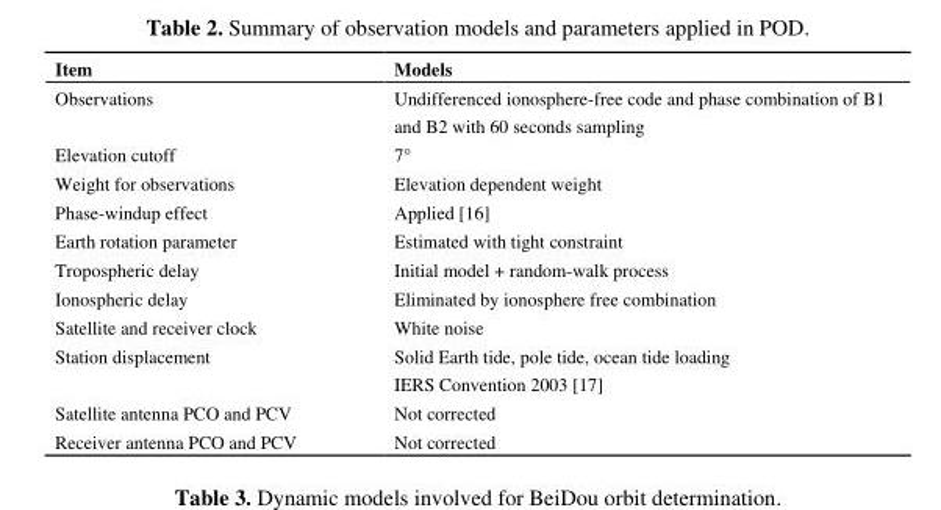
<table><thead><tr><td>Item</td><td>Models</td></tr></thead><tbody><tr><td>Observations</td><td>Undifferenced ionosphere-free code and phase combination of B1 and B2 with 60 seconds sampling</td></tr><tr><td>Elevation cutoff</td><td>7°</td></tr><tr><td>Weight for observations</td><td>Elevation dependent weight</td></tr><tr><td>Phase-windup effect</td><td>Applied [16]</td></tr><tr><td>Earth rotation parameter</td><td>Estimated with tight constraint</td></tr><tr><td>Tropospheric delay</td><td>Initial model + random-walk process</td></tr><tr><td>Ionospheric delay</td><td>Eliminated by ionosphere free combination</td></tr><tr><td>Satellite and receiver clock</td><td>White noise</td></tr><tr><td rowspan="2">Station displacement</td><td>Solid Earth tide, pole tide, ocean tide loading</td></tr><tr><td>IERS Convention 2003 [17]</td></tr><tr><td>Satellite antenna PCO and PCV</td><td>Not corrected</td></tr><tr><td>Receiver antenna PCO and PCV</td><td>Not corrected</td></tr></tbody></table>